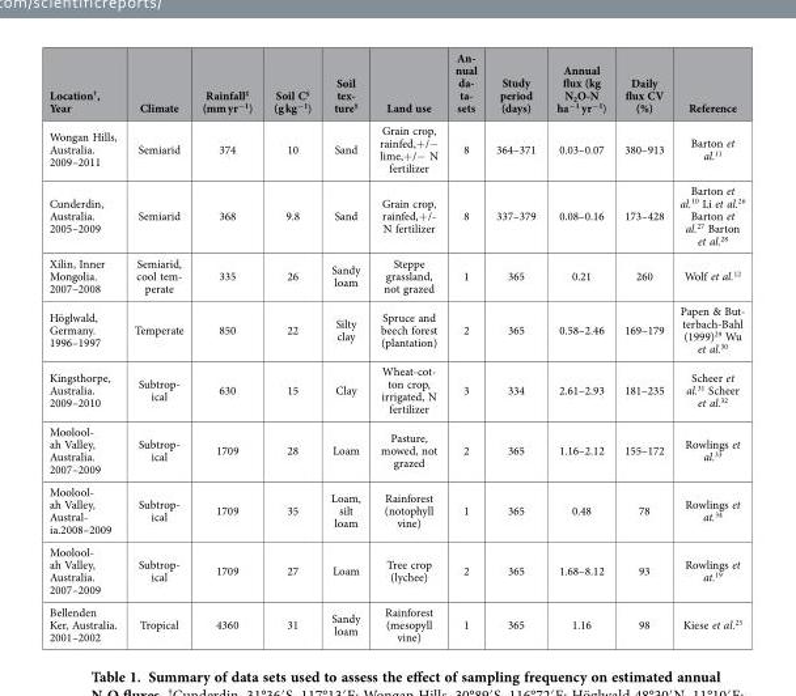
<table><thead><tr><td>Location†, Year</td><td>Climate</td><td>Rainfall‡ (mm yr<sup>−1</sup>)</td><td>Soil C§ (g kg<sup>−1</sup>)</td><td>Soil tex- ture§</td><td>Land use</td><td>An- nual da- ta- sets</td><td>Study period (days)</td><td>Annual flux (kg N<sub>2</sub>O-N ha<sup>−1</sup> yr<sup>−1</sup>)</td><td>Daily flux CV (%)</td><td>Reference</td></tr></thead><tbody><tr><td>Wongan Hills, Australia. 2009–2011</td><td>Semiarid</td><td>374</td><td>10</td><td>Sand</td><td>Grain crop, rainfed,+ /− lime,+ /− N fertilizer</td><td>8</td><td>364–371</td><td>0.03–0.07</td><td>380–913</td><td>Barton et al.<sup>11</sup></td></tr><tr><td>Cunderdin, Australia. 2005–2009</td><td>Semiarid</td><td>368</td><td>9.8</td><td>Sand</td><td>Grain crop, rainfed,+ /- N fertilizer</td><td>8</td><td>337–379</td><td>0.08–0.16</td><td>173–428</td><td>Barton et al.<sup>10</sup> Li et al.<sup>26</sup> Barton et al.<sup>27</sup> Barton et al.<sup>28</sup></td></tr><tr><td>Xilin, Inner Mongolia. 2007–2008</td><td>Semiarid, cool tem- perate</td><td>335</td><td>26</td><td>Sandy loam</td><td>Steppe grassland, not grazed</td><td>1</td><td>365</td><td>0.21</td><td>260</td><td>Wolf et al.<sup>12</sup></td></tr><tr><td>Höglwald, Germany. 1996–1997</td><td>Temperate</td><td>850</td><td>22</td><td>Silty clay</td><td>Spruce and beech forest (plantation)</td><td>2</td><td>365</td><td>0.58–2.46</td><td>169–179</td><td>Papen &amp; But- terbach-Bahl (1999)29 Wu et al.30</td></tr><tr><td>Kingsthorpe, Australia. 2009–2010</td><td>Subtrop- ical</td><td>630</td><td>15</td><td>Clay</td><td>Wheat-cot- ton crop, irrigated, N fertilizer</td><td>3</td><td>334</td><td>2.61–2.93</td><td>181–235</td><td>Scheer et al.<sup>31</sup> Scheer et al.<sup>32</sup></td></tr><tr><td>Moolool- ah Valley, Australia. 2007–2009</td><td>Subtrop- ical</td><td>1709</td><td>28</td><td>Loam</td><td>Pasture, mowed, not grazed</td><td>2</td><td>365</td><td>1.16–2.12</td><td>155–172</td><td>Rowlings et al.<sup>33</sup></td></tr><tr><td>Moolool- ah Valley, Austral- ia.2008–2009</td><td>Subtrop- ical</td><td>1709</td><td>35</td><td>Loam, silt loam</td><td>Rainforest (notophyll vine)</td><td>1</td><td>365</td><td>0.48</td><td>78</td><td>Rowlings et at.<sup>34</sup></td></tr><tr><td>Moolool- ah Valley, Australia. 2007–2009</td><td>Subtrop- ical</td><td>1709</td><td>27</td><td>Loam</td><td>Tree crop (lychee)</td><td>2</td><td>365</td><td>1.68–8.12</td><td>93</td><td>Rowlings et at.<sup>19</sup></td></tr><tr><td>Bellenden Ker, Australia. 2001–2002</td><td>Tropical</td><td>4360</td><td>31</td><td>Sandy loam</td><td>Rainforest (mesopyll vine)</td><td>1</td><td>365</td><td>1.16</td><td>98</td><td>Kiese et al.<sup>23</sup></td></tr></tbody></table>